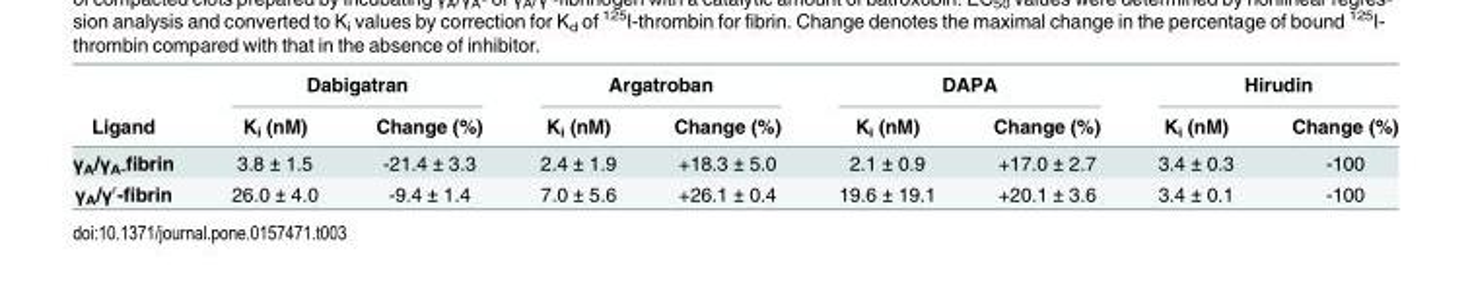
<table><thead><tr><td rowspan="2">Ligand</td><td colspan="2">Dabigatran</td><td colspan="2">Argatroban</td><td colspan="2">DAPA</td><td colspan="2">Hirudin</td></tr><tr><td>K<sub>i</sub> (nM)</td><td>Change (%)</td><td>K<sub>i</sub> (nM)</td><td>Change (%)</td><td>K<sub>i</sub> (nM)</td><td>Change (%)</td><td>K<sub>i</sub> (nM)</td><td>Change (%)</td></tr></thead><tbody><tr><td>γ<sub>A</sub>/γ<sub>A-</sub>fibrin</td><td>3.8 ± 1.5</td><td>-21.4 ± 3.3</td><td>2.4 ± 1.9</td><td>+18.3 ± 5.0</td><td>2.1 ± 0.9</td><td>+17.0 ± 2.7</td><td>3.4 ± 0.3</td><td>-100</td></tr><tr><td>γ<sub>A</sub>/γ′-fibrin</td><td>26.0 ± 4.0</td><td>-9.4 ± 1.4</td><td>7.0 ± 5.6</td><td>+26.1 ± 0.4</td><td>19.6 ± 19.1</td><td>+20.1 ± 3.6</td><td>3.4 ± 0.1</td><td>-100</td></tr></tbody></table>